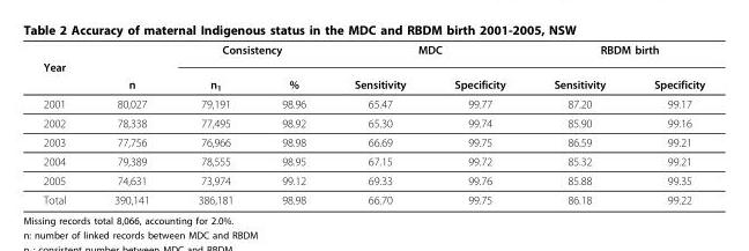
<table><thead><tr><td rowspan="3">Year</td><td rowspan="3">n</td><td colspan="2">Consistency</td><td colspan="2">MDC</td><td colspan="2">RBDM birth</td></tr><tr><td colspan="6"></td></tr><tr><td>n<sub>1</sub></td><td>%</td><td>Sensitivity</td><td>Specificity</td><td>Sensitivity</td><td>Specificity</td></tr></thead><tbody><tr><td>2001</td><td>80,027</td><td>79,191</td><td>98.96</td><td>65.47</td><td>99.77</td><td>87.20</td><td>99.17</td></tr><tr><td>2002</td><td>78,338</td><td>77,495</td><td>98.92</td><td>65.30</td><td>99.74</td><td>85.90</td><td>99.16</td></tr><tr><td>2003</td><td>77,756</td><td>76,966</td><td>98.98</td><td>66.69</td><td>99.75</td><td>86.59</td><td>99.21</td></tr><tr><td>2004</td><td>79,389</td><td>78,555</td><td>98.95</td><td>67.15</td><td>99.72</td><td>85.32</td><td>99.21</td></tr><tr><td>2005</td><td>74,631</td><td>73,974</td><td>99.12</td><td>69.33</td><td>99.76</td><td>85.88</td><td>99.35</td></tr><tr><td>Total</td><td>390,141</td><td>386,181</td><td>98.98</td><td>66.70</td><td>99.75</td><td>86.18</td><td>99.22</td></tr></tbody></table>